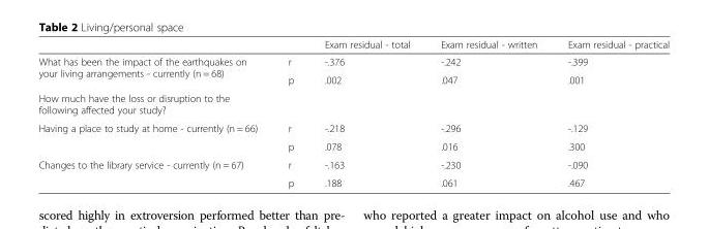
<table><thead><tr><td></td><td></td><td>Exam residual - total</td><td>Exam residual - written</td><td>Exam residual - practical</td></tr></thead><tbody><tr><td rowspan="2">What has been the impact of the earthquakes on your living arrangements - currently (n = 68)</td><td>r</td><td>-.376</td><td>-.242</td><td>-.399</td></tr><tr><td>p</td><td>.002</td><td>.047</td><td>.001</td></tr><tr><td colspan="5">How much have the loss or disruption to the following affected your study?</td></tr><tr><td rowspan="2">Having a place to study at home - currently (n = 66)</td><td>r</td><td>-.218</td><td>-.296</td><td>-.129</td></tr><tr><td>p</td><td>.078</td><td>.016</td><td>.300</td></tr><tr><td rowspan="2">Changes to the library service - currently (n = 67)</td><td>r</td><td>-.163</td><td>-.230</td><td>-.090</td></tr><tr><td>p</td><td>.188</td><td>.061</td><td>.467</td></tr></tbody></table>